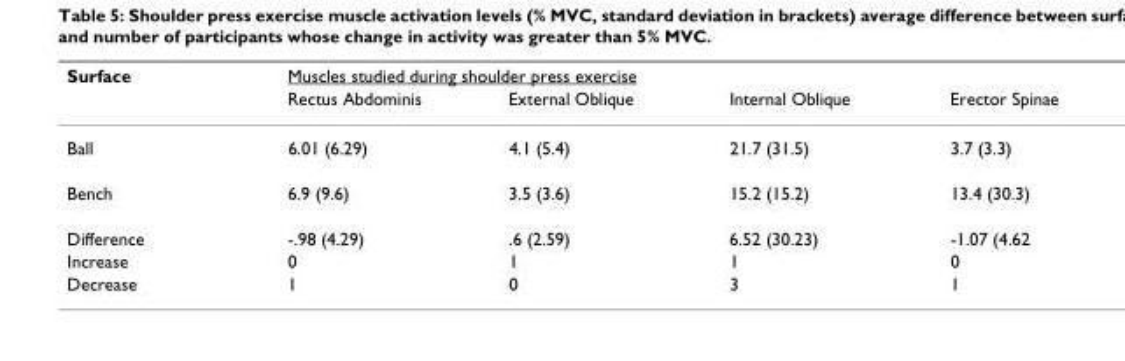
<table><thead><tr><td rowspan="2">Surface</td><td colspan="4">Muscles studied during shoulder press exercise</td></tr><tr><td>Rectus Abdominis</td><td>External Oblique</td><td>Internal Oblique</td><td>Erector Spinae</td></tr></thead><tbody><tr><td>Ball</td><td>6.01 (6.29)</td><td>4.1 (5.4)</td><td>21.7 (31.5)</td><td>3.7 (3.3)</td></tr><tr><td>Bench</td><td>6.9 (9.6)</td><td>3.5 (3.6)</td><td>15.2 (15.2)</td><td>13.4 (30.3)</td></tr><tr><td>Difference</td><td>-.98 (4.29)</td><td>.6 (2.59)</td><td>6.52 (30.23)</td><td>-1.07 (4.62</td></tr><tr><td>Increase</td><td>0</td><td>1</td><td>1</td><td>0</td></tr><tr><td>Decrease</td><td>1</td><td>0</td><td>3</td><td>1</td></tr></tbody></table>